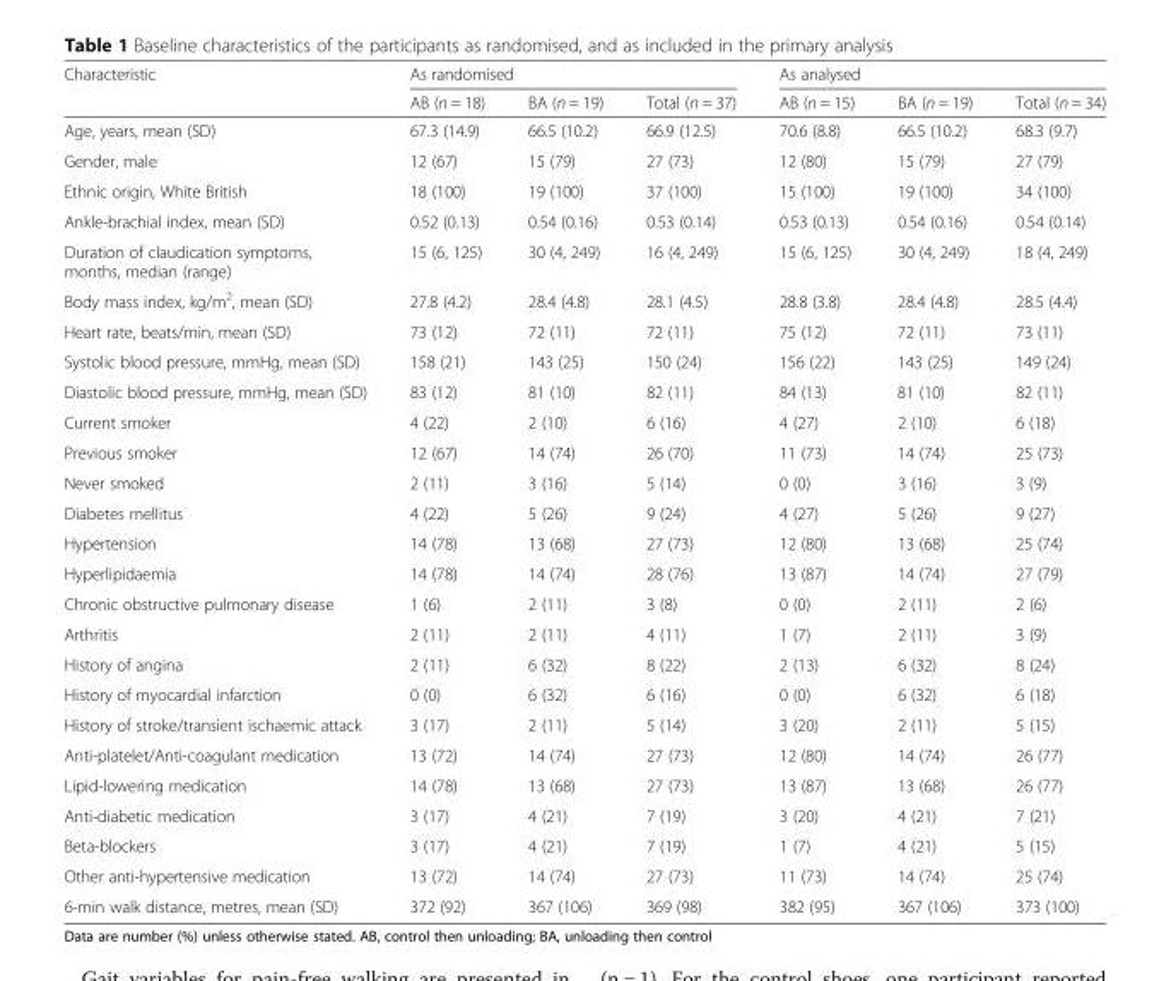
<table><thead><tr><td rowspan="2">Characteristic</td><td colspan="3">As randomised</td><td colspan="3">As analysed</td></tr><tr><td>AB (n = 18)</td><td>BA (n = 19)</td><td>Total (n = 37)</td><td>AB (n = 15)</td><td>BA (n = 19)</td><td>Total (n = 34)</td></tr></thead><tbody><tr><td>Age, years, mean (SD)</td><td>67.3 (14.9)</td><td>66.5 (10.2)</td><td>66.9 (12.5)</td><td>70.6 (8.8)</td><td>66.5 (10.2)</td><td>68.3 (9.7)</td></tr><tr><td>Gender, male</td><td>12 (67)</td><td>15 (79)</td><td>27 (73)</td><td>12 (80)</td><td>15 (79)</td><td>27 (79)</td></tr><tr><td>Ethnic origin, White British</td><td>18 (100)</td><td>19 (100)</td><td>37 (100)</td><td>15 (100)</td><td>19 (100)</td><td>34 (100)</td></tr><tr><td>Ankle-brachial index, mean (SD)</td><td>0.52 (0.13)</td><td>0.54 (0.16)</td><td>0.53 (0.14)</td><td>0.53 (0.13)</td><td>0.54 (0.16)</td><td>0.54 (0.14)</td></tr><tr><td>Duration of claudication symptoms, months, median (range)</td><td>15 (6, 125)</td><td>30 (4, 249)</td><td>16 (4, 249)</td><td>15 (6, 125)</td><td>30 (4, 249)</td><td>18 (4, 249)</td></tr><tr><td>Body mass index, kg/m<sup>2</sup>, mean (SD)</td><td>27.8 (4.2)</td><td>28.4 (4.8)</td><td>28.1 (4.5)</td><td>28.8 (3.8)</td><td>28.4 (4.8)</td><td>28.5 (4.4)</td></tr><tr><td>Heart rate, beats/min, mean (SD)</td><td>73 (12)</td><td>72 (11)</td><td>72 (11)</td><td>75 (12)</td><td>72 (11)</td><td>73 (11)</td></tr><tr><td>Systolic blood pressure, mmHg, mean (SD)</td><td>158 (21)</td><td>143 (25)</td><td>150 (24)</td><td>156 (22)</td><td>143 (25)</td><td>149 (24)</td></tr><tr><td>Diastolic blood pressure, mmHg, mean (SD)</td><td>83 (12)</td><td>81 (10)</td><td>82 (11)</td><td>84 (13)</td><td>81 (10)</td><td>82 (11)</td></tr><tr><td>Current smoker</td><td>4 (22)</td><td>2 (10)</td><td>6 (16)</td><td>4 (27)</td><td>2 (10)</td><td>6 (18)</td></tr><tr><td>Previous smoker</td><td>12 (67)</td><td>14 (74)</td><td>26 (70)</td><td>11 (73)</td><td>14 (74)</td><td>25 (73)</td></tr><tr><td>Never smoked</td><td>2 (11)</td><td>3 (16)</td><td>5 (14)</td><td>0 (0)</td><td>3 (16)</td><td>3 (9)</td></tr><tr><td>Diabetes mellitus</td><td>4 (22)</td><td>5 (26)</td><td>9 (24)</td><td>4 (27)</td><td>5 (26)</td><td>9 (27)</td></tr><tr><td>Hypertension</td><td>14 (78)</td><td>13 (68)</td><td>27 (73)</td><td>12 (80)</td><td>13 (68)</td><td>25 (74)</td></tr><tr><td>Hyperlipidaemia</td><td>14 (78)</td><td>14 (74)</td><td>28 (76)</td><td>13 (87)</td><td>14 (74)</td><td>27 (79)</td></tr><tr><td>Chronic obstructive pulmonary disease</td><td>1 (6)</td><td>2 (11)</td><td>3 (8)</td><td>0 (0)</td><td>2 (11)</td><td>2 (6)</td></tr><tr><td>Arthritis</td><td>2 (11)</td><td>2 (11)</td><td>4 (11)</td><td>1 (7)</td><td>2 (11)</td><td>3 (9)</td></tr><tr><td>History of angina</td><td>2 (11)</td><td>6 (32)</td><td>8 (22)</td><td>2 (13)</td><td>6 (32)</td><td>8 (24)</td></tr><tr><td>History of myocardial infarction</td><td>0 (0)</td><td>6 (32)</td><td>6 (16)</td><td>0 (0)</td><td>6 (32)</td><td>6 (18)</td></tr><tr><td>History of stroke/transient ischaemic attack</td><td>3 (17)</td><td>2 (11)</td><td>5 (14)</td><td>3 (20)</td><td>2 (11)</td><td>5 (15)</td></tr><tr><td>Anti-platelet/Anti-coagulant medication</td><td>13 (72)</td><td>14 (74)</td><td>27 (73)</td><td>12 (80)</td><td>14 (74)</td><td>26 (77)</td></tr><tr><td>Lipid-lowering medication</td><td>14 (78)</td><td>13 (68)</td><td>27 (73)</td><td>13 (87)</td><td>13 (68)</td><td>26 (77)</td></tr><tr><td>Anti-diabetic medication</td><td>3 (17)</td><td>4 (21)</td><td>7 (19)</td><td>3 (20)</td><td>4 (21)</td><td>7 (21)</td></tr><tr><td>Beta-blockers</td><td>3 (17)</td><td>4 (21)</td><td>7 (19)</td><td>1 (7)</td><td>4 (21)</td><td>5 (15)</td></tr><tr><td>Other anti-hypertensive medication</td><td>13 (72)</td><td>14 (74)</td><td>27 (73)</td><td>11 (73)</td><td>14 (74)</td><td>25 (74)</td></tr><tr><td>6-min walk distance, metres, mean (SD)</td><td>372 (92)</td><td>367 (106)</td><td>369 (98)</td><td>382 (95)</td><td>367 (106)</td><td>373 (100)</td></tr></tbody></table>